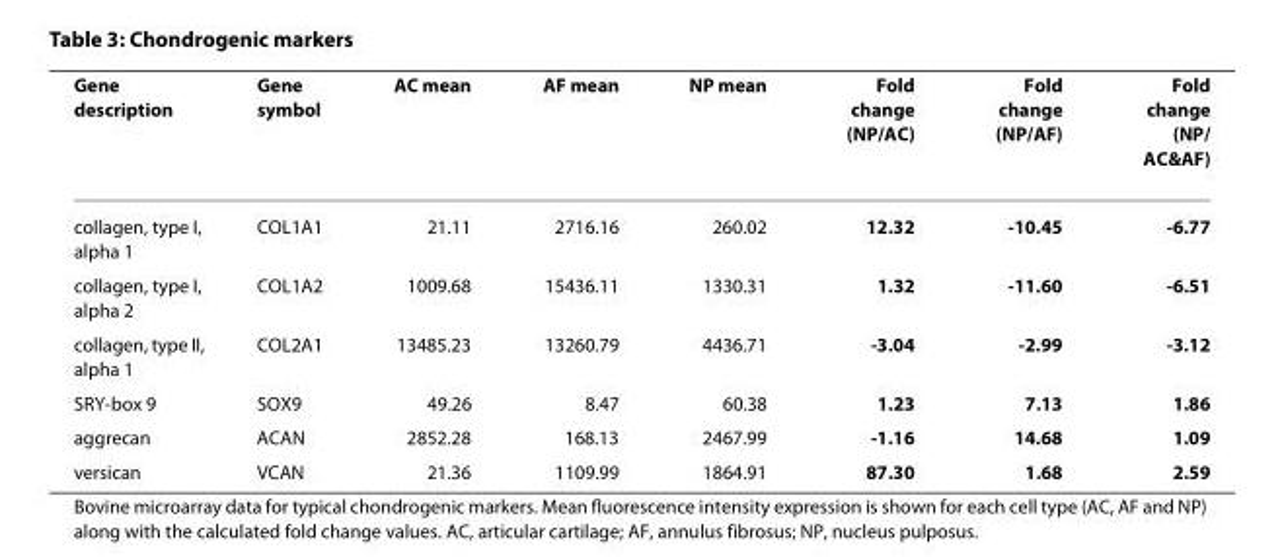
<table><thead><tr><td>Gene description</td><td>Gene symbol</td><td>AC mean</td><td>AF mean</td><td>NP mean</td><td>Fold change (NP/AC)</td><td>Fold change (NP/AF)</td><td>Fold change (NP/ AC&amp;AF)</td></tr></thead><tbody><tr><td>collagen, type I, alpha 1</td><td>COL1A1</td><td>21.11</td><td>2716.16</td><td>260.02</td><td>12.32</td><td>-10.45</td><td>-6.77</td></tr><tr><td>collagen, type I, alpha 2</td><td>COL1A2</td><td>1009.68</td><td>15436.11</td><td>1330.31</td><td>1.32</td><td>-11.60</td><td>-6.51</td></tr><tr><td>collagen, type II, alpha 1</td><td>COL2A1</td><td>13485.23</td><td>13260.79</td><td>4436.71</td><td>-3.04</td><td>-2.99</td><td>-3.12</td></tr><tr><td>SRY-box 9</td><td>SOX9</td><td>49.26</td><td>8.47</td><td>60.38</td><td>1.23</td><td>7.13</td><td>1.86</td></tr><tr><td>aggrecan</td><td>ACAN</td><td>2852.28</td><td>168.13</td><td>2467.99</td><td>-1.16</td><td>14.68</td><td>1.09</td></tr><tr><td>versican</td><td>VCAN</td><td>21.36</td><td>1109.99</td><td>1864.91</td><td>87.30</td><td>1.68</td><td>2.59</td></tr></tbody></table>